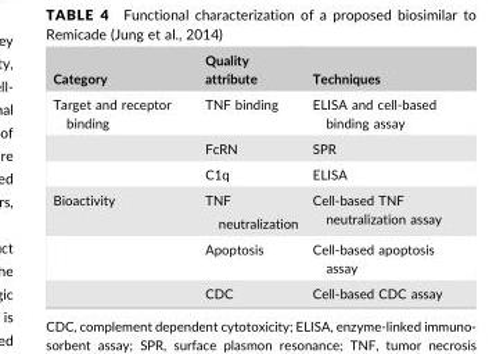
<table><thead><tr><td>Category</td><td>Quality attribute</td><td>Techniques</td></tr></thead><tbody><tr><td rowspan="3">Target and receptor binding</td><td>TNF binding</td><td>ELISA and cell-based binding assay</td></tr><tr><td>FcRN</td><td>SPR</td></tr><tr><td>C1q</td><td>ELISA</td></tr><tr><td rowspan="3">Bioactivity</td><td>TNF neutralization</td><td>Cell-based TNF neutralization assay</td></tr><tr><td>Apoptosis</td><td>Cell-based apoptosis assay</td></tr><tr><td>CDC</td><td>Cell-based CDC assay</td></tr></tbody></table>